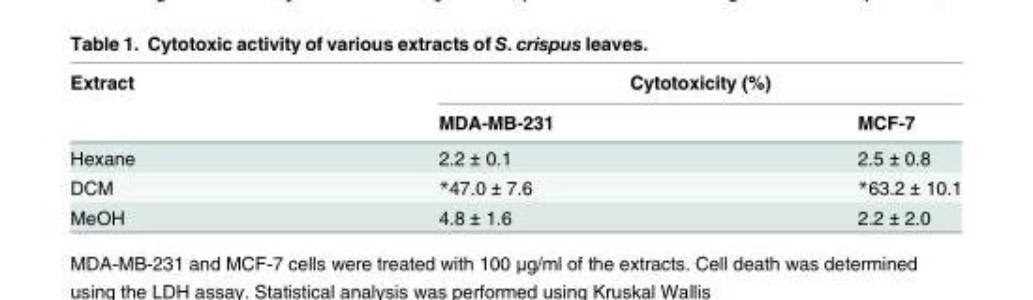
<table><thead><tr><td rowspan="2">Extract</td><td colspan="2">Cytotoxicity (%)</td></tr><tr><td>MDA-MB-231</td><td>MCF-7</td></tr></thead><tbody><tr><td>Hexane</td><td>2.2 ± 0.1</td><td>2.5 ± 0.8</td></tr><tr><td>DCM</td><td>*47.0 ± 7.6</td><td>*63.2 ± 10.1</td></tr><tr><td>MeOH</td><td>4.8 ± 1.6</td><td>2.2 ± 2.0</td></tr></tbody></table>